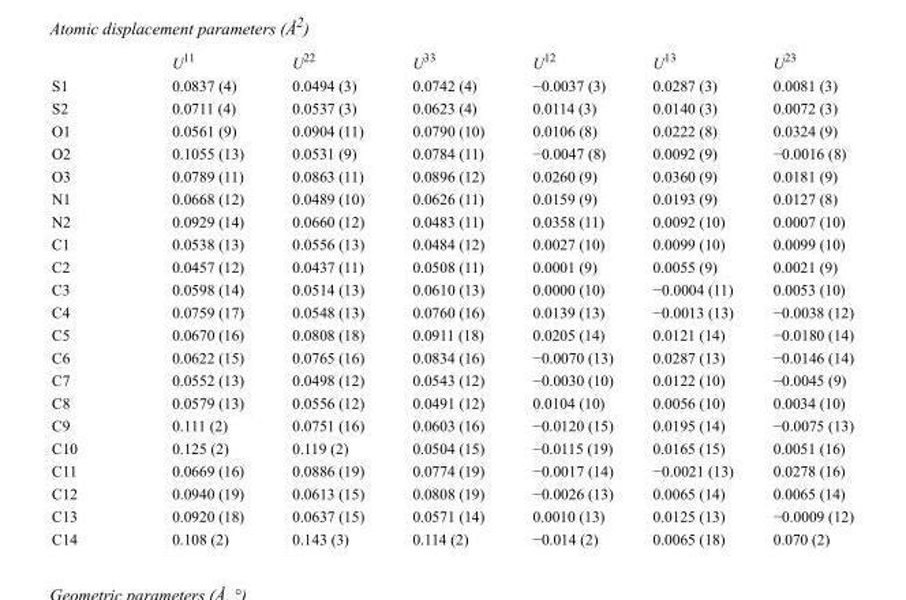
<table><thead><tr><td></td><td>U<sup>11</sup></td><td>U<sup>22</sup></td><td>U<sup>33</sup></td><td>U<sup>12</sup></td><td>U<sup>13</sup></td><td>U<sup>23</sup></td></tr></thead><tbody><tr><td>S1</td><td>0.0837 (4)</td><td>0.0494 (3)</td><td>0.0742 (4)</td><td>−0.0037 (3)</td><td>0.0287 (3)</td><td>0.0081 (3)</td></tr><tr><td>S2</td><td>0.0711 (4)</td><td>0.0537 (3)</td><td>0.0623 (4)</td><td>0.0114 (3)</td><td>0.0140 (3)</td><td>0.0072 (3)</td></tr><tr><td>O1</td><td>0.0561 (9)</td><td>0.0904 (11)</td><td>0.0790 (10)</td><td>0.0106 (8)</td><td>0.0222 (8)</td><td>0.0324 (9)</td></tr><tr><td>O2</td><td>0.1055 (13)</td><td>0.0531 (9)</td><td>0.0784 (11)</td><td>−0.0047 (8)</td><td>0.0092 (9)</td><td>−0.0016 (8)</td></tr><tr><td>O3</td><td>0.0789 (11)</td><td>0.0863 (11)</td><td>0.0896 (12)</td><td>0.0260 (9)</td><td>0.0360 (9)</td><td>0.0181 (9)</td></tr><tr><td>N1</td><td>0.0668 (12)</td><td>0.0489 (10)</td><td>0.0626 (11)</td><td>0.0159 (9)</td><td>0.0193 (9)</td><td>0.0127 (8)</td></tr><tr><td>N2</td><td>0.0929 (14)</td><td>0.0660 (12)</td><td>0.0483 (11)</td><td>0.0358 (11)</td><td>0.0092 (10)</td><td>0.0007 (10)</td></tr><tr><td>C1</td><td>0.0538 (13)</td><td>0.0556 (13)</td><td>0.0484 (12)</td><td>0.0027 (10)</td><td>0.0099 (10)</td><td>0.0099 (10)</td></tr><tr><td>C2</td><td>0.0457 (12)</td><td>0.0437 (11)</td><td>0.0508 (11)</td><td>0.0001 (9)</td><td>0.0055 (9)</td><td>0.0021 (9)</td></tr><tr><td>C3</td><td>0.0598 (14)</td><td>0.0514 (13)</td><td>0.0610 (13)</td><td>0.0000 (10)</td><td>−0.0004 (11)</td><td>0.0053 (10)</td></tr><tr><td>C4</td><td>0.0759 (17)</td><td>0.0548 (13)</td><td>0.0760 (16)</td><td>0.0139 (13)</td><td>−0.0013 (13)</td><td>−0.0038 (12)</td></tr><tr><td>C5</td><td>0.0670 (16)</td><td>0.0808 (18)</td><td>0.0911 (18)</td><td>0.0205 (14)</td><td>0.0121 (14)</td><td>−0.0180 (14)</td></tr><tr><td>C6</td><td>0.0622 (15)</td><td>0.0765 (16)</td><td>0.0834 (16)</td><td>−0.0070 (13)</td><td>0.0287 (13)</td><td>−0.0146 (14)</td></tr><tr><td>C7</td><td>0.0552 (13)</td><td>0.0498 (12)</td><td>0.0543 (12)</td><td>−0.0030 (10)</td><td>0.0122 (10)</td><td>−0.0045 (9)</td></tr><tr><td>C8</td><td>0.0579 (13)</td><td>0.0556 (12)</td><td>0.0491 (12)</td><td>0.0104 (10)</td><td>0.0056 (10)</td><td>0.0034 (10)</td></tr><tr><td>C9</td><td>0.111 (2)</td><td>0.0751 (16)</td><td>0.0603 (16)</td><td>−0.0120 (15)</td><td>0.0195 (14)</td><td>−0.0075 (13)</td></tr><tr><td>C10</td><td>0.125 (2)</td><td>0.119 (2)</td><td>0.0504 (15)</td><td>−0.0115 (19)</td><td>0.0165 (15)</td><td>0.0051 (16)</td></tr><tr><td>C11</td><td>0.0669 (16)</td><td>0.0886 (19)</td><td>0.0774 (19)</td><td>−0.0017 (14)</td><td>−0.0021 (13)</td><td>0.0278 (16)</td></tr><tr><td>C12</td><td>0.0940 (19)</td><td>0.0613 (15)</td><td>0.0808 (19)</td><td>−0.0026 (13)</td><td>0.0065 (14)</td><td>0.0065 (14)</td></tr><tr><td>C13</td><td>0.0920 (18)</td><td>0.0637 (15)</td><td>0.0571 (14)</td><td>0.0010 (13)</td><td>0.0125 (13)</td><td>−0.0009 (12)</td></tr><tr><td>C14</td><td>0.108 (2)</td><td>0.143 (3)</td><td>0.114 (2)</td><td>−0.014 (2)</td><td>0.0065 (18)</td><td>0.070 (2)</td></tr></tbody></table>